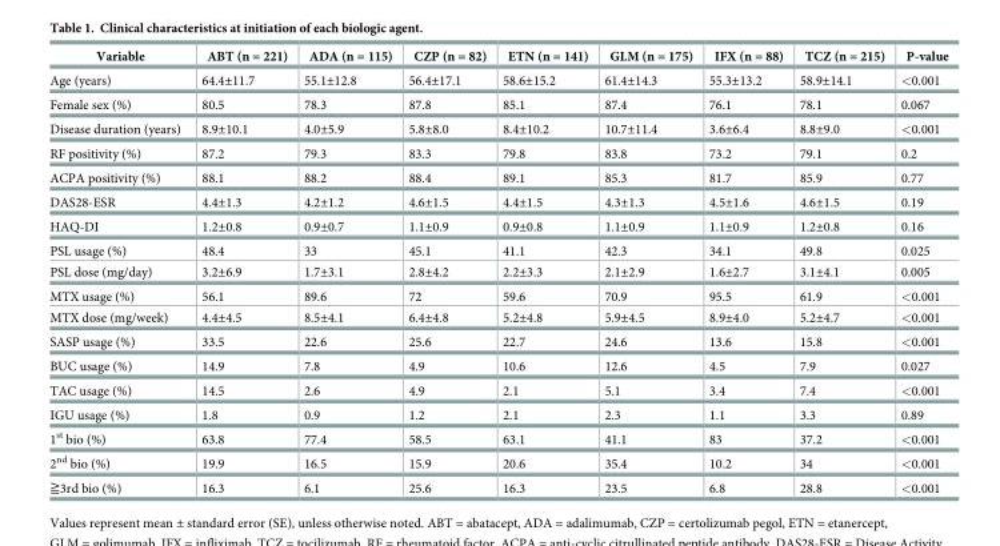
<table><thead><tr><td>Variable</td><td>ABT (n = 221)</td><td>ADA (n = 115)</td><td>CZP (n = 82)</td><td>ETN (n = 141)</td><td>GLM (n = 175)</td><td>IFX (n = 88)</td><td>TCZ (n = 215)</td><td>P-value</td></tr></thead><tbody><tr><td>Age (years)</td><td>64.4±11.7</td><td>55.1±12.8</td><td>56.4±17.1</td><td>58.6±15.2</td><td>61.4±14.3</td><td>55.3±13.2</td><td>58.9±14.1</td><td>&lt;0.001</td></tr><tr><td>Female sex (%)</td><td>80.5</td><td>78.3</td><td>87.8</td><td>85.1</td><td>87.4</td><td>76.1</td><td>78.1</td><td>0.067</td></tr><tr><td>Disease duration (years)</td><td>8.9±10.1</td><td>4.0±5.9</td><td>5.8±8.0</td><td>8.4±10.2</td><td>10.7±11.4</td><td>3.6±6.4</td><td>8.8±9.0</td><td>&lt;0.001</td></tr><tr><td>RF positivity (%)</td><td>87.2</td><td>79.3</td><td>83.3</td><td>79.8</td><td>83.8</td><td>73.2</td><td>79.1</td><td>0.2</td></tr><tr><td>ACPA positivity (%)</td><td>88.1</td><td>88.2</td><td>88.4</td><td>89.1</td><td>85.3</td><td>81.7</td><td>85.9</td><td>0.77</td></tr><tr><td>DAS28-ESR</td><td>4.4±1.3</td><td>4.2±1.2</td><td>4.6±1.5</td><td>4.4±1.5</td><td>4.3±1.3</td><td>4.5±1.6</td><td>4.6±1.5</td><td>0.19</td></tr><tr><td>HAQ-DI</td><td>1.2±0.8</td><td>0.9±0.7</td><td>1.1±0.9</td><td>0.9±0.8</td><td>1.1±0.9</td><td>1.1±0.9</td><td>1.2±0.8</td><td>0.16</td></tr><tr><td>PSL usage (%)</td><td>48.4</td><td>33</td><td>45.1</td><td>41.1</td><td>42.3</td><td>34.1</td><td>49.8</td><td>0.025</td></tr><tr><td>PSL dose (mg/day)</td><td>3.2±6.9</td><td>1.7±3.1</td><td>2.8±4.2</td><td>2.2±3.3</td><td>2.1±2.9</td><td>1.6±2.7</td><td>3.1±4.1</td><td>0.005</td></tr><tr><td>MTX usage (%)</td><td>56.1</td><td>89.6</td><td>72</td><td>59.6</td><td>70.9</td><td>95.5</td><td>61.9</td><td>&lt;0.001</td></tr><tr><td>MTX dose (mg/week)</td><td>4.4±4.5</td><td>8.5±4.1</td><td>6.4±4.8</td><td>5.2±4.8</td><td>5.9±4.5</td><td>8.9±4.0</td><td>5.2±4.7</td><td>&lt;0.001</td></tr><tr><td>SASP usage (%)</td><td>33.5</td><td>22.6</td><td>25.6</td><td>22.7</td><td>24.6</td><td>13.6</td><td>15.8</td><td>&lt;0.001</td></tr><tr><td>BUC usage (%)</td><td>14.9</td><td>7.8</td><td>4.9</td><td>10.6</td><td>12.6</td><td>4.5</td><td>7.9</td><td>0.027</td></tr><tr><td>TAC usage (%)</td><td>14.5</td><td>2.6</td><td>4.9</td><td>2.1</td><td>5.1</td><td>3.4</td><td>7.4</td><td>&lt;0.001</td></tr><tr><td>IGU usage (%)</td><td>1.8</td><td>0.9</td><td>1.2</td><td>2.1</td><td>2.3</td><td>1.1</td><td>3.3</td><td>0.89</td></tr><tr><td>1<sup>st</sup> bio (%)</td><td>63.8</td><td>77.4</td><td>58.5</td><td>63.1</td><td>41.1</td><td>83</td><td>37.2</td><td>&lt;0.001</td></tr><tr><td>2<sup>nd</sup> bio (%)</td><td>19.9</td><td>16.5</td><td>15.9</td><td>20.6</td><td>35.4</td><td>10.2</td><td>34</td><td>&lt;0.001</td></tr><tr><td>≧3rd bio (%)</td><td>16.3</td><td>6.1</td><td>25.6</td><td>16.3</td><td>23.5</td><td>6.8</td><td>28.8</td><td>&lt;0.001</td></tr></tbody></table>